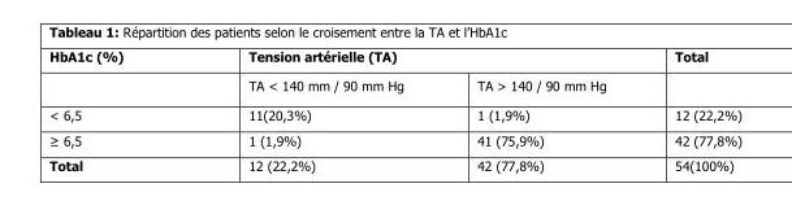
<table><thead><tr><td rowspan="2">HbA1c (%)</td><td colspan="2">Tension artérielle (TA)</td><td rowspan="2">Total</td></tr><tr><td>TA &lt; 140 mm / 90 mm Hg</td><td>TA &gt; 140 / 90 mm Hg</td></tr></thead><tbody><tr><td>&lt; 6,5</td><td>11(20,3%)</td><td>1 (1,9%)</td><td>12 (22,2%)</td></tr><tr><td>≥ 6,5</td><td>1 (1,9%)</td><td>41 (75,9%)</td><td>42 (77,8%)</td></tr><tr><td>Total</td><td>12 (22,2%)</td><td>42 (77,8%)</td><td>54(100%)</td></tr></tbody></table>